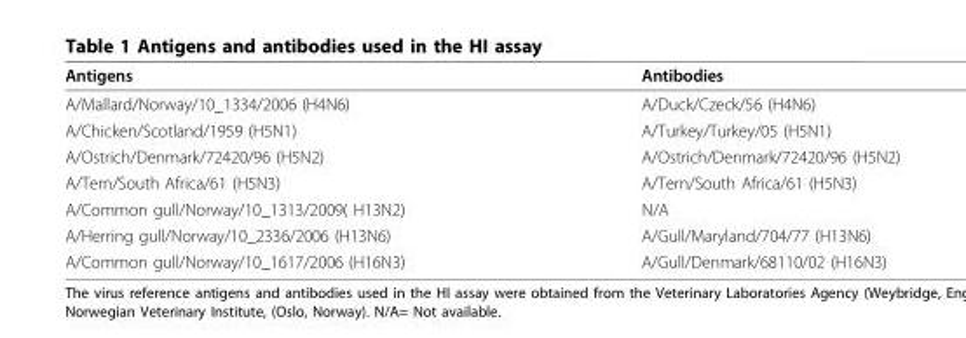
<table><thead><tr><td>Antigens</td><td>Antibodies</td></tr></thead><tbody><tr><td>A/Mallard/Norway/10_1334/2006 (H4N6)</td><td>A/Duck/Czeck/56 (H4N6)</td></tr><tr><td>A/Chicken/Scotland/1959 (H5N1)</td><td>A/Turkey/Turkey/05 (H5N1)</td></tr><tr><td>A/Ostrich/Denmark/72420/96 (H5N2)</td><td>A/Ostrich/Denmark/72420/96 (H5N2)</td></tr><tr><td>A/Tern/South Africa/61 (H5N3)</td><td>A/Tern/South Africa/61 (H5N3)</td></tr><tr><td>A/Common gull/Norway/10_1313/2009( H13N2)</td><td>N/A</td></tr><tr><td>A/Herring gull/Norway/10_2336/2006 (H13N6)</td><td>A/Gull/Maryland/704/77 (H13N6)</td></tr><tr><td>A/Common gull/Norway/10_1617/2006 (H16N3)</td><td>A/Gull/Denmark/68110/02 (H16N3)</td></tr></tbody></table>